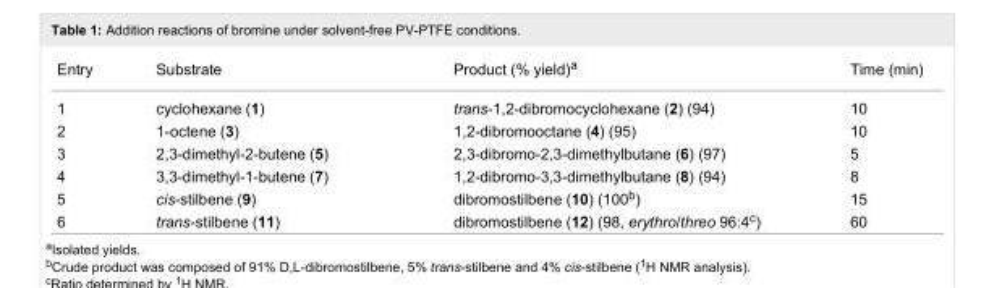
<table><tbody><tr><td>Entry</td><td>Substrate</td><td>Product (% yield)<sup>a</sup></td><td>Time (min)</td></tr><tr><td>1</td><td>cyclohexane (1)</td><td>trans-1,2-dibromocyclohexane (2) (94)</td><td>10</td></tr><tr><td>2</td><td>1-octene (3)</td><td>1,2-dibromooctane (4) (95)</td><td>10</td></tr><tr><td>3</td><td>2,3-dimethyl-2-butene (5)</td><td>2,3-dibromo-2,3-dimethylbutane (6) (97)</td><td>5</td></tr><tr><td>4</td><td>3,3-dimethyl-1-butene (7)</td><td>1,2-dibromo-3,3-dimethylbutane (8) (94)</td><td>8</td></tr><tr><td>5</td><td>cis-stilbene (9)</td><td>dibromostilbene (10) (100<sup>b</sup>)</td><td>15</td></tr><tr><td>6</td><td>trans-stilbene (11)</td><td>dibromostilbene (12) (98, erythro/threo 96:4<sup>c</sup>)</td><td>60</td></tr></tbody></table>